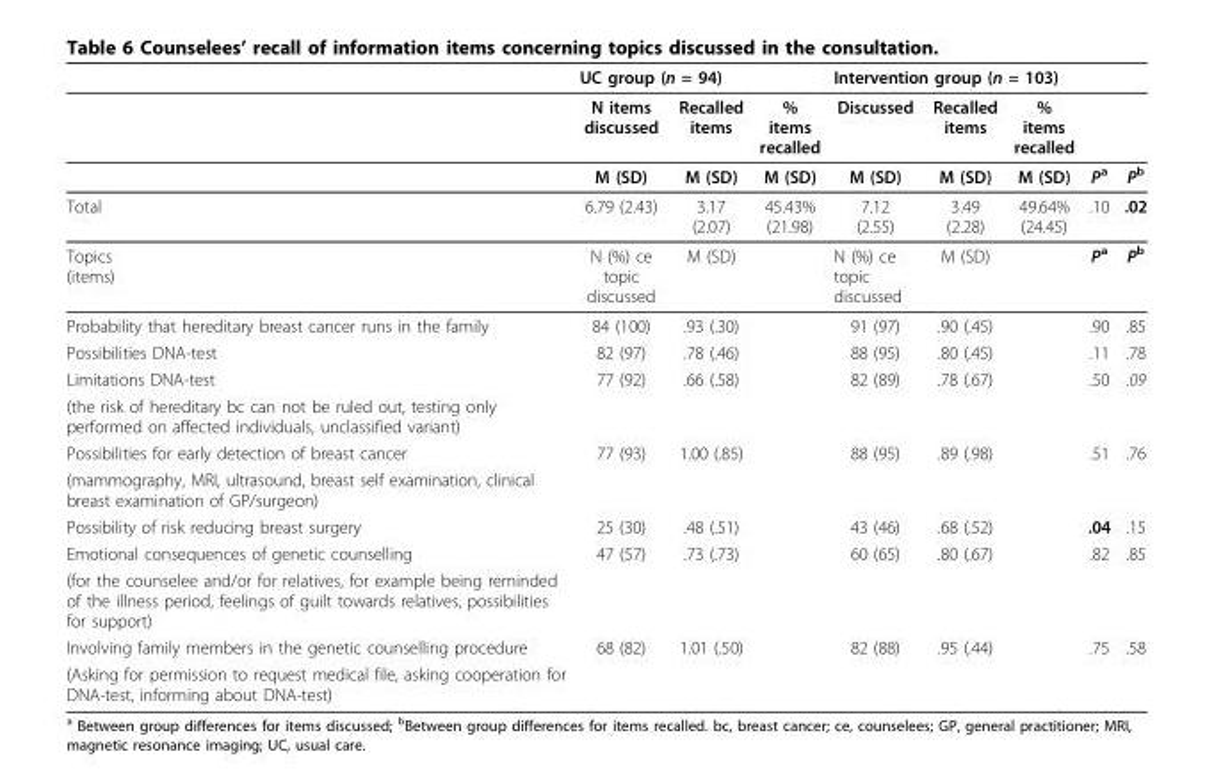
<table><thead><tr><td rowspan="2"></td><td colspan="2">UC group (n = 94)</td><td rowspan="2">% items recalled</td><td colspan="3">Intervention group (n = 103)</td><td rowspan="2"></td><td rowspan="2"></td></tr><tr><td>N items discussed</td><td>Recalled items</td><td>Discussed</td><td>Recalled items</td><td>% items recalled</td></tr></thead><tbody><tr><td></td><td>M (SD)</td><td>M (SD)</td><td>M (SD)</td><td>M (SD)</td><td>M (SD)</td><td>M (SD)</td><td>Pa</td><td>Pb</td></tr><tr><td>Total</td><td>6.79 (2.43)</td><td>3.17 (2.07)</td><td>45.43% (21.98)</td><td>7.12 (2.55)</td><td>3.49 (2.28)</td><td>49.64% (24.45)</td><td>.10</td><td>.02</td></tr><tr><td>Topics (items)</td><td>N (%) ce topic discussed</td><td>M (SD)</td><td></td><td>N (%) ce topic discussed</td><td>M (SD)</td><td></td><td>Pa</td><td>Pb</td></tr><tr><td>Probability that hereditary breast cancer runs in the family</td><td>84 (100)</td><td>.93 (.30)</td><td></td><td>91 (97)</td><td>.90 (.45)</td><td></td><td>.90</td><td>.85</td></tr><tr><td>Possibilities DNA-test</td><td>82 (97)</td><td>.78 (.46)</td><td></td><td>88 (95)</td><td>.80 (.45)</td><td></td><td>.11</td><td>.78</td></tr><tr><td>Limitations DNA-test</td><td>77 (92)</td><td>.66 (.58)</td><td></td><td>82 (89)</td><td>.78 (.67)</td><td></td><td>.50</td><td>.09</td></tr><tr><td colspan="9">(the risk of hereditary bc can not be ruled out, testing only performed on affected individuals, unclassified variant)</td></tr><tr><td>Possibilities for early detection of breast cancer</td><td>77 (93)</td><td>1.00 (.85)</td><td></td><td>88 (95)</td><td>.89 (.98)</td><td></td><td>.51</td><td>.76</td></tr><tr><td colspan="9">(mammography, MRI, ultrasound, breast self examination, clinical breast examination of GP/surgeon)</td></tr><tr><td>Possibility of risk reducing breast surgery</td><td>25 (30)</td><td>.48 (.51)</td><td></td><td>43 (46)</td><td>.68 (.52)</td><td></td><td>.04</td><td>.15</td></tr><tr><td>Emotional consequences of genetic counselling</td><td>47 (57)</td><td>.73 (.73)</td><td></td><td>60 (65)</td><td>.80 (.67)</td><td></td><td>.82</td><td>.85</td></tr><tr><td colspan="9">(for the counselee and/or for relatives, for example being reminded of the illness period, feelings of guilt towards relatives, possibilities for support)</td></tr><tr><td>Involving family members in the genetic counselling procedure</td><td>68 (82)</td><td>1.01 (.50)</td><td></td><td>82 (88)</td><td>.95 (.44)</td><td></td><td>.75</td><td>.58</td></tr><tr><td>(Asking for permission to request medical file, asking cooperation for DNA-test, informing about DNA-test)</td><td></td><td></td><td></td><td></td><td></td><td></td><td></td><td></td></tr></tbody></table>